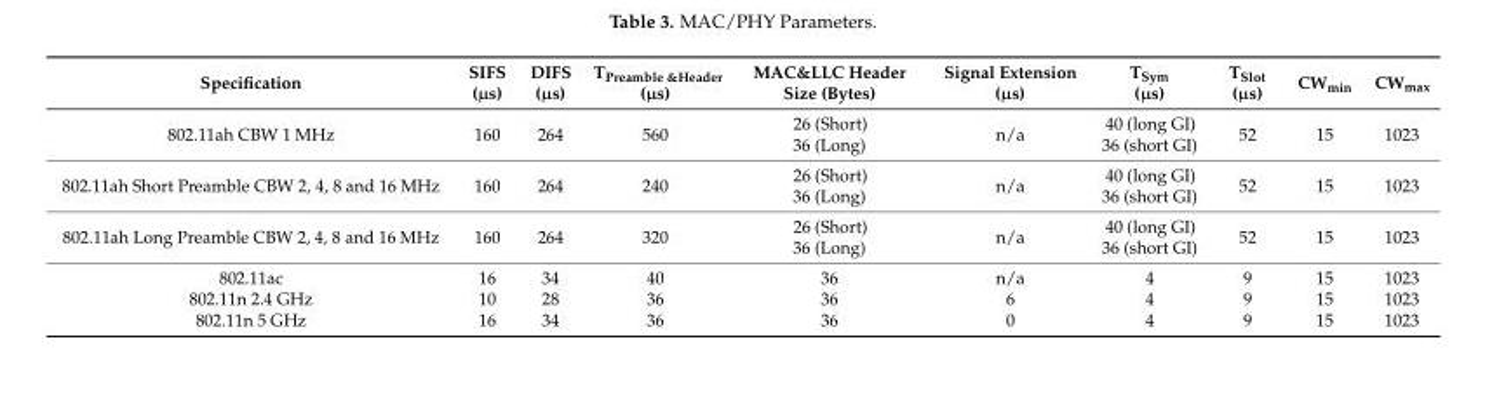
<table><thead><tr><td>Specification</td><td>SIFS (µs)</td><td>DIFS (µs)</td><td>T<sub>Preamble &amp;Header</sub> (µs)</td><td>MAC&amp;LLC Header Size (Bytes)</td><td>Signal Extension (µs)</td><td>T<sub>Sym</sub> (µs)</td><td>T<sub>Slot</sub> (µs)</td><td>CW<sub>min</sub></td><td>CW<sub>max</sub></td></tr></thead><tbody><tr><td>802.11ah CBW 1 MHz</td><td>160</td><td>264</td><td>560</td><td>26 (Short) 36 (Long)</td><td>n/a</td><td>40 (long GI) 36 (short GI)</td><td>52</td><td>15</td><td>1023</td></tr><tr><td>802.11ah Short Preamble CBW 2, 4, 8 and 16 MHz</td><td>160</td><td>264</td><td>240</td><td>26 (Short) 36 (Long)</td><td>n/a</td><td>40 (long GI) 36 (short GI)</td><td>52</td><td>15</td><td>1023</td></tr><tr><td>802.11ah Long Preamble CBW 2, 4, 8 and 16 MHz</td><td>160</td><td>264</td><td>320</td><td>26 (Short) 36 (Long)</td><td>n/a</td><td>40 (long GI) 36 (short GI)</td><td>52</td><td>15</td><td>1023</td></tr><tr><td>802.11ac</td><td>16</td><td>34</td><td>40</td><td>36</td><td>n/a</td><td>4</td><td>9</td><td>15</td><td>1023</td></tr><tr><td>802.11n 2.4 GHz</td><td>10</td><td>28</td><td>36</td><td>36</td><td>6</td><td>4</td><td>9</td><td>15</td><td>1023</td></tr><tr><td>802.11n 5 GHz</td><td>16</td><td>34</td><td>36</td><td>36</td><td>0</td><td>4</td><td>9</td><td>15</td><td>1023</td></tr></tbody></table>